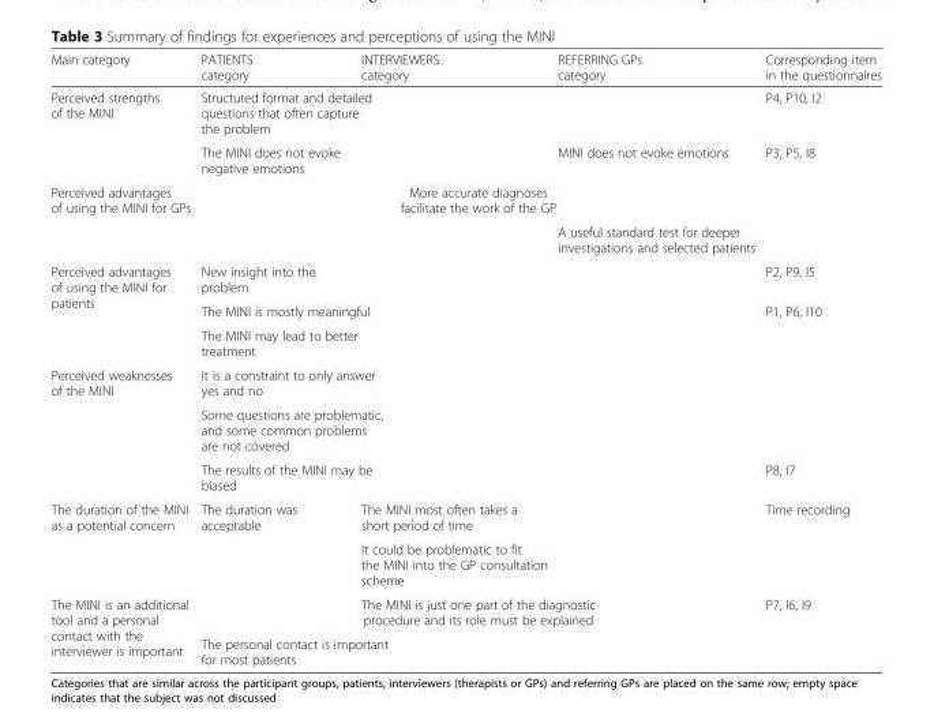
<table><thead><tr><td>Main category</td><td>PATIENTS category</td><td>INTERVIEWERS category</td><td>REFERRING GPs category</td><td>Corresponding item in the questionnaires</td></tr></thead><tbody><tr><td rowspan="2">Perceived strengths of the MINI</td><td colspan="2">Structured format and detailed questions that often capture the problem</td><td></td><td>P4, P10, I2</td></tr><tr><td>The MINI does not evoke negative emotions</td><td></td><td>MINI does not evoke emotions</td><td>P3, P5, I8</td></tr><tr><td rowspan="2">Perceived advantages of using the MINI for GPs</td><td colspan="3">More accurate diagnoses facilitate the work of the GP</td><td rowspan="2"></td></tr><tr><td colspan="2"></td><td>A useful standard test for deeper investigations and selected patients</td></tr><tr><td rowspan="3">Perceived advantages of using the MINI for patients</td><td>New insight into the problem</td><td colspan="2"></td><td>P2, P9, I5</td></tr><tr><td colspan="3">The MINI is mostly meaningful</td><td>P1, P6, I10</td></tr><tr><td colspan="3">The MINI may lead to better treatment</td><td></td></tr><tr><td rowspan="3">Perceived weaknesses of the MINI</td><td colspan="2">It is a constraint to only answer yes and no</td><td rowspan="3"></td><td rowspan="2"></td></tr><tr><td colspan="2">Some questions are problematic, and some common problems are not covered</td></tr><tr><td colspan="2">The results of the MINI may be biased</td><td>P8, I7</td></tr><tr><td rowspan="2">The duration of the MINI as a potential concern</td><td>The duration was acceptable</td><td>The MINI most often takes a short period of time</td><td rowspan="2"></td><td>Time recording</td></tr><tr><td></td><td>It could be problematic to fit the MINI into the GP consultation scheme</td><td></td></tr><tr><td rowspan="2">The MINI is an additional tool and a personal contact with the interviewer is important</td><td colspan="3">The MINI is just one part of the diagnostic procedure and its role must be explained</td><td rowspan="2">P7, I6, I9</td></tr><tr><td colspan="2">The personal contact is important for most patients</td><td></td></tr></tbody></table>